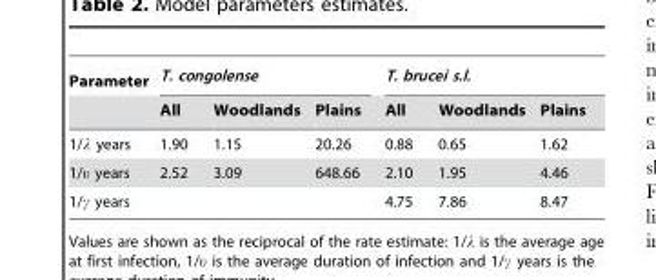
<table><thead><tr><td rowspan="2">Parameter</td><td colspan="3">T. congolense</td><td colspan="3">T. brucei s.l.</td></tr><tr><td>All</td><td>Woodlands</td><td>Plains</td><td>All</td><td>Woodlands</td><td>Plains</td></tr></thead><tbody><tr><td>1/λ years</td><td>1.90</td><td>1.15</td><td>20.26</td><td>0.88</td><td>0.65</td><td>1.62</td></tr><tr><td>1/υ years</td><td>2.52</td><td>3.09</td><td>648.66</td><td>2.10</td><td>1.95</td><td>4.46</td></tr><tr><td>1/γ years</td><td></td><td></td><td></td><td>4.75</td><td>7.86</td><td>8.47</td></tr></tbody></table>